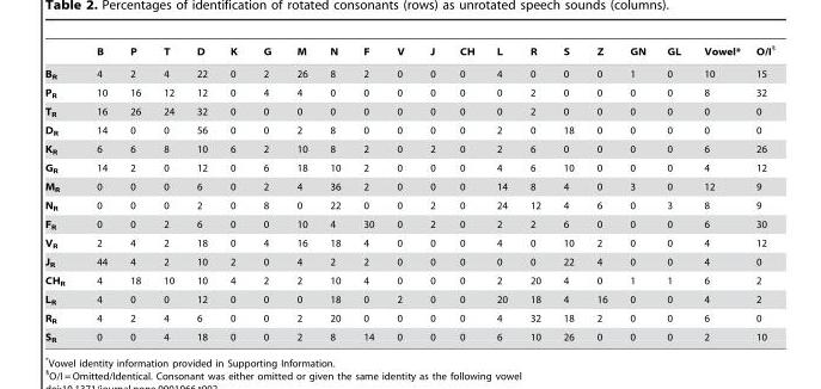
<table><thead><tr><td></td><td>B</td><td>P</td><td>T</td><td>D</td><td>K</td><td>G</td><td>M</td><td>N</td><td>F</td><td>V</td><td>J</td><td>CH</td><td>L</td><td>R</td><td>S</td><td>Z</td><td>GN</td><td>GL</td><td>Vowel*</td><td>O/I§</td></tr></thead><tbody><tr><td>B<sub>R</sub></td><td>4</td><td>2</td><td>4</td><td>22</td><td>0</td><td>2</td><td>26</td><td>8</td><td>2</td><td>0</td><td>0</td><td>0</td><td>4</td><td>0</td><td>0</td><td>0</td><td>1</td><td>0</td><td>10</td><td>15</td></tr><tr><td>P<sub>R</sub></td><td>10</td><td>16</td><td>12</td><td>12</td><td>0</td><td>4</td><td>4</td><td>0</td><td>0</td><td>0</td><td>0</td><td>0</td><td>0</td><td>2</td><td>0</td><td>0</td><td>0</td><td>0</td><td>8</td><td>32</td></tr><tr><td>T<sub>R</sub></td><td>16</td><td>26</td><td>24</td><td>32</td><td>0</td><td>0</td><td>0</td><td>0</td><td>0</td><td>0</td><td>0</td><td>0</td><td>0</td><td>2</td><td>0</td><td>0</td><td>0</td><td>0</td><td>0</td><td>0</td></tr><tr><td>D<sub>R</sub></td><td>14</td><td>0</td><td>0</td><td>56</td><td>0</td><td>0</td><td>2</td><td>8</td><td>0</td><td>0</td><td>0</td><td>0</td><td>2</td><td>0</td><td>18</td><td>0</td><td>0</td><td>0</td><td>0</td><td>0</td></tr><tr><td>K<sub>R</sub></td><td>6</td><td>6</td><td>8</td><td>10</td><td>6</td><td>2</td><td>10</td><td>8</td><td>2</td><td>0</td><td>2</td><td>0</td><td>2</td><td>6</td><td>0</td><td>0</td><td>0</td><td>0</td><td>6</td><td>26</td></tr><tr><td>G<sub>R</sub></td><td>14</td><td>2</td><td>0</td><td>12</td><td>0</td><td>6</td><td>18</td><td>10</td><td>2</td><td>0</td><td>0</td><td>0</td><td>4</td><td>6</td><td>10</td><td>0</td><td>0</td><td>0</td><td>4</td><td>12</td></tr><tr><td>M<sub>R</sub></td><td>0</td><td>0</td><td>0</td><td>6</td><td>0</td><td>2</td><td>4</td><td>36</td><td>2</td><td>0</td><td>0</td><td>0</td><td>14</td><td>8</td><td>4</td><td>0</td><td>3</td><td>0</td><td>12</td><td>9</td></tr><tr><td>N<sub>R</sub></td><td>0</td><td>0</td><td>0</td><td>2</td><td>0</td><td>8</td><td>0</td><td>22</td><td>0</td><td>0</td><td>2</td><td>0</td><td>24</td><td>12</td><td>4</td><td>6</td><td>0</td><td>3</td><td>8</td><td>9</td></tr><tr><td>F<sub>R</sub></td><td>0</td><td>0</td><td>2</td><td>6</td><td>0</td><td>0</td><td>10</td><td>4</td><td>30</td><td>0</td><td>2</td><td>0</td><td>2</td><td>2</td><td>6</td><td>0</td><td>0</td><td>0</td><td>6</td><td>30</td></tr><tr><td>V<sub>R</sub></td><td>2</td><td>4</td><td>2</td><td>18</td><td>0</td><td>4</td><td>16</td><td>18</td><td>4</td><td>0</td><td>0</td><td>0</td><td>4</td><td>0</td><td>10</td><td>2</td><td>0</td><td>0</td><td>4</td><td>12</td></tr><tr><td>J<sub>R</sub></td><td>44</td><td>4</td><td>2</td><td>10</td><td>2</td><td>0</td><td>4</td><td>2</td><td>2</td><td>0</td><td>0</td><td>0</td><td>0</td><td>0</td><td>22</td><td>4</td><td>0</td><td>0</td><td>4</td><td>0</td></tr><tr><td>CH<sub>R</sub></td><td>4</td><td>18</td><td>10</td><td>10</td><td>4</td><td>2</td><td>2</td><td>10</td><td>4</td><td>0</td><td>0</td><td>0</td><td>2</td><td>20</td><td>4</td><td>0</td><td>1</td><td>1</td><td>6</td><td>2</td></tr><tr><td>L<sub>R</sub></td><td>4</td><td>0</td><td>0</td><td>12</td><td>0</td><td>0</td><td>0</td><td>18</td><td>0</td><td>2</td><td>0</td><td>0</td><td>20</td><td>18</td><td>4</td><td>16</td><td>0</td><td>0</td><td>4</td><td>2</td></tr><tr><td>R<sub>R</sub></td><td>4</td><td>2</td><td>4</td><td>6</td><td>0</td><td>0</td><td>2</td><td>20</td><td>0</td><td>0</td><td>0</td><td>0</td><td>4</td><td>32</td><td>18</td><td>2</td><td>0</td><td>0</td><td>6</td><td>0</td></tr><tr><td>S<sub>R</sub></td><td>0</td><td>0</td><td>4</td><td>18</td><td>0</td><td>0</td><td>2</td><td>8</td><td>14</td><td>0</td><td>0</td><td>0</td><td>6</td><td>10</td><td>26</td><td>0</td><td>0</td><td>0</td><td>2</td><td>10</td></tr></tbody></table>